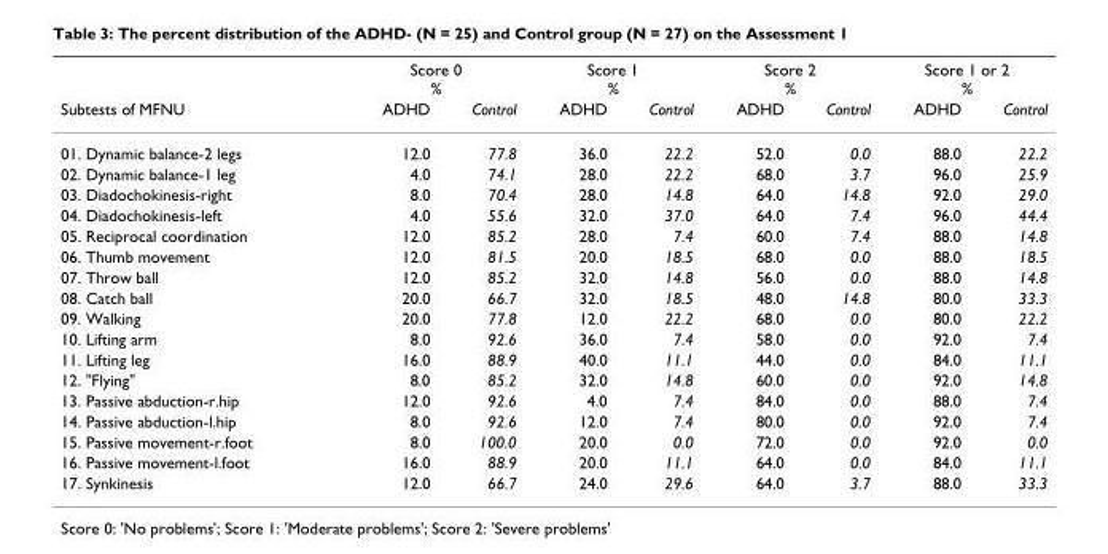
<table><thead><tr><td rowspan="2">Subtests of MFNU</td><td colspan="2">Score 0 %</td><td colspan="2">Score 1 %</td><td colspan="2">Score 2 %</td><td colspan="2">Score 1 or 2 %</td></tr><tr><td>ADHD</td><td>Control</td><td>ADHD</td><td>Control</td><td>ADHD</td><td>Control</td><td>ADHD</td><td>Control</td></tr></thead><tbody><tr><td>01. Dynamic balance-2 legs</td><td>12.0</td><td>77.8</td><td>36.0</td><td>22.2</td><td>52.0</td><td>0.0</td><td>88.0</td><td>22.2</td></tr><tr><td>02. Dynamic balance-1 leg</td><td>4.0</td><td>74.1</td><td>28.0</td><td>22.2</td><td>68.0</td><td>3.7</td><td>96.0</td><td>25.9</td></tr><tr><td>03. Diadochokinesis-right</td><td>8.0</td><td>70.4</td><td>28.0</td><td>14.8</td><td>64.0</td><td>14.8</td><td>92.0</td><td>29.0</td></tr><tr><td>04. Diadochokinesis-left</td><td>4.0</td><td>55.6</td><td>32.0</td><td>37.0</td><td>64.0</td><td>7.4</td><td>96.0</td><td>44.4</td></tr><tr><td>05. Reciprocal coordination</td><td>12.0</td><td>85.2</td><td>28.0</td><td>7.4</td><td>60.0</td><td>7.4</td><td>88.0</td><td>14.8</td></tr><tr><td>06. Thumb movement</td><td>12.0</td><td>81.5</td><td>20.0</td><td>18.5</td><td>68.0</td><td>0.0</td><td>88.0</td><td>18.5</td></tr><tr><td>07. Throw ball</td><td>12.0</td><td>85.2</td><td>32.0</td><td>14.8</td><td>56.0</td><td>0.0</td><td>88.0</td><td>14.8</td></tr><tr><td>08. Catch ball</td><td>20.0</td><td>66.7</td><td>32.0</td><td>18.5</td><td>48.0</td><td>14.8</td><td>80.0</td><td>33.3</td></tr><tr><td>09. Walking</td><td>20.0</td><td>77.8</td><td>12.0</td><td>22.2</td><td>68.0</td><td>0.0</td><td>80.0</td><td>22.2</td></tr><tr><td>10. Lifting arm</td><td>8.0</td><td>92.6</td><td>36.0</td><td>7.4</td><td>58.0</td><td>0.0</td><td>92.0</td><td>7.4</td></tr><tr><td>11. Lifting leg</td><td>16.0</td><td>88.9</td><td>40.0</td><td>11.1</td><td>44.0</td><td>0.0</td><td>84.0</td><td>11.1</td></tr><tr><td>12. &quot;Flying&quot;</td><td>8.0</td><td>85.2</td><td>32.0</td><td>14.8</td><td>60.0</td><td>0.0</td><td>92.0</td><td>14.8</td></tr><tr><td>13. Passive abduction-r.hip</td><td>12.0</td><td>92.6</td><td>4.0</td><td>7.4</td><td>84.0</td><td>0.0</td><td>88.0</td><td>7.4</td></tr><tr><td>14. Passive abduction-l.hip</td><td>8.0</td><td>92.6</td><td>12.0</td><td>7.4</td><td>80.0</td><td>0.0</td><td>92.0</td><td>7.4</td></tr><tr><td>15. Passive movement-r.foot</td><td>8.0</td><td>100.0</td><td>20.0</td><td>0.0</td><td>72.0</td><td>0.0</td><td>92.0</td><td>0.0</td></tr><tr><td>16. Passive movement-l.foot</td><td>16.0</td><td>88.9</td><td>20.0</td><td>11.1</td><td>64.0</td><td>0.0</td><td>84.0</td><td>11.1</td></tr><tr><td>17. Synkinesis</td><td>12.0</td><td>66.7</td><td>24.0</td><td>29.6</td><td>64.0</td><td>3.7</td><td>88.0</td><td>33.3</td></tr></tbody></table>